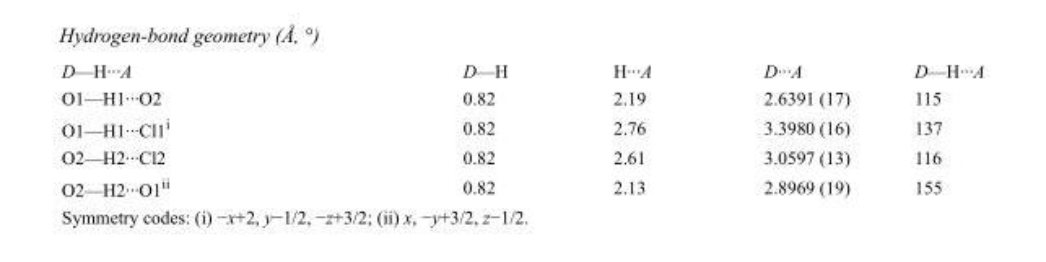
<table><tbody><tr><td>D—H···A</td><td>D—H</td><td>H···A</td><td>D···A</td><td>D—H···A</td></tr><tr><td>O1—H1···O2</td><td>0.82</td><td>2.19</td><td>2.6391 (17)</td><td>115</td></tr><tr><td>O1—H1···Cl1<sup>i</sup></td><td>0.82</td><td>2.76</td><td>3.3980 (16)</td><td>137</td></tr><tr><td>O2—H2···Cl2</td><td>0.82</td><td>2.61</td><td>3.0597 (13)</td><td>116</td></tr><tr><td>O2—H2···O1<sup>ii</sup></td><td>0.82</td><td>2.13</td><td>2.8969 (19)</td><td>155</td></tr></tbody></table>